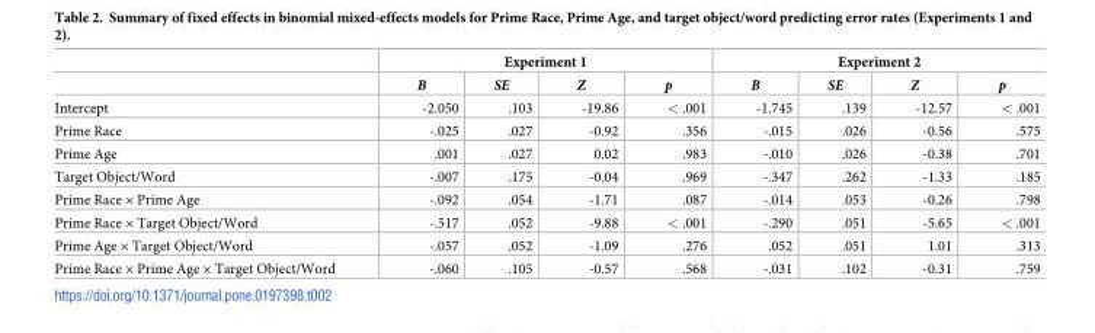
<table><thead><tr><td rowspan="2"></td><td colspan="4">Experiment 1</td><td colspan="4">Experiment 2</td></tr><tr><td>B</td><td>SE</td><td>Z</td><td>p</td><td>B</td><td>SE</td><td>Z</td><td>p</td></tr></thead><tbody><tr><td>Intercept</td><td>-2.050</td><td>.103</td><td>-19.86</td><td>&lt; .001</td><td>-1.745</td><td>.139</td><td>-12.57</td><td>&lt; .001</td></tr><tr><td>Prime Race</td><td>-.025</td><td>.027</td><td>-0.92</td><td>.356</td><td>-.015</td><td>.026</td><td>-0.56</td><td>.575</td></tr><tr><td>Prime Age</td><td>.001</td><td>.027</td><td>0.02</td><td>.983</td><td>-.010</td><td>.026</td><td>-0.38</td><td>.701</td></tr><tr><td>Target Object/Word</td><td>-.007</td><td>.175</td><td>-0.04</td><td>.969</td><td>-.347</td><td>.262</td><td>-1.33</td><td>.185</td></tr><tr><td>Prime Race × Prime Age</td><td>-.092</td><td>.054</td><td>-1.71</td><td>.087</td><td>-.014</td><td>.053</td><td>-0.26</td><td>.798</td></tr><tr><td>Prime Race × Target Object/Word</td><td>-.517</td><td>.052</td><td>-9.88</td><td>&lt; .001</td><td>-.290</td><td>.051</td><td>-5.65</td><td>&lt; .001</td></tr><tr><td>Prime Age × Target Object/Word</td><td>-.057</td><td>.052</td><td>-1.09</td><td>.276</td><td>.052</td><td>.051</td><td>1.01</td><td>.313</td></tr><tr><td>Prime Race × Prime Age × Target Object/Word</td><td>-.060</td><td>.105</td><td>-0.57</td><td>.568</td><td>-.031</td><td>.102</td><td>-0.31</td><td>.759</td></tr></tbody></table>